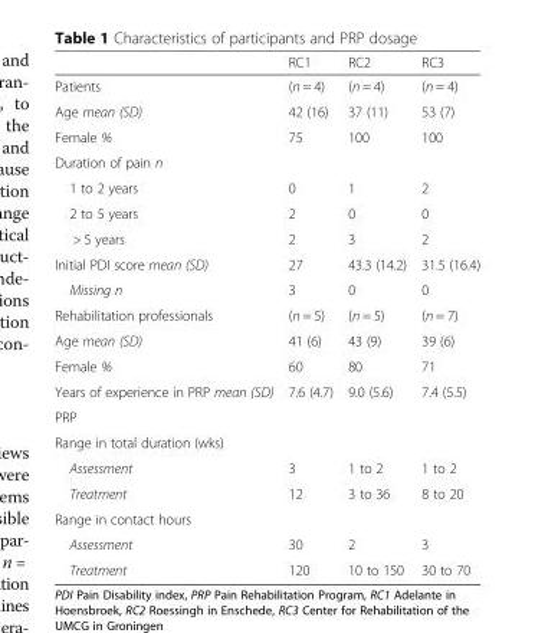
<table><thead><tr><td></td><td>RC1</td><td>RC2</td><td>RC3</td></tr></thead><tbody><tr><td>Patients</td><td>(n = 4)</td><td>(n = 4)</td><td>(n = 4)</td></tr><tr><td>Age mean (SD)</td><td>42 (16)</td><td>37 (11)</td><td>53 (7)</td></tr><tr><td>Female %</td><td>75</td><td>100</td><td>100</td></tr><tr><td colspan="4">Duration of pain n</td></tr><tr><td>1 to 2 years</td><td>0</td><td>1</td><td>2</td></tr><tr><td>2 to 5 years</td><td>2</td><td>0</td><td>0</td></tr><tr><td>&gt; 5 years</td><td>2</td><td>3</td><td>2</td></tr><tr><td>Initial PDI score mean (SD)</td><td>27</td><td>43.3 (14.2)</td><td>31.5 (16.4)</td></tr><tr><td>Missing n</td><td>3</td><td>0</td><td>0</td></tr><tr><td>Rehabilitation professionals</td><td>(n = 5)</td><td>(n = 5)</td><td>(n = 7)</td></tr><tr><td>Age mean (SD)</td><td>41 (6)</td><td>43 (9)</td><td>39 (6)</td></tr><tr><td>Female %</td><td>60</td><td>80</td><td>71</td></tr><tr><td>Years of experience in PRP mean (SD)</td><td>7.6 (4.7)</td><td>9.0 (5.6)</td><td>7.4 (5.5)</td></tr><tr><td colspan="4">PRP</td></tr><tr><td colspan="4">Range in total duration (wks)</td></tr><tr><td>Assessment</td><td>3</td><td>1 to 2</td><td>1 to 2</td></tr><tr><td>Treatment</td><td>12</td><td>3 to 36</td><td>8 to 20</td></tr><tr><td colspan="4">Range in contact hours</td></tr><tr><td>Assessment</td><td>30</td><td>2</td><td>3</td></tr><tr><td>Treatment</td><td>120</td><td>10 to 150</td><td>30 to 70</td></tr></tbody></table>